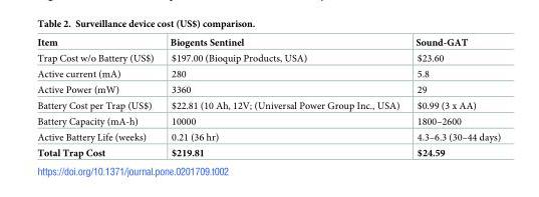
<table><thead><tr><td>Item</td><td>Biogents Sentinel</td><td>Sound-GAT</td></tr></thead><tbody><tr><td>Trap Cost w/o Battery (US$)</td><td>$197.00 (Bioquip Products, USA)</td><td>$23.60</td></tr><tr><td>Active current (mA)</td><td>280</td><td>5.8</td></tr><tr><td>Active Power (mW)</td><td>3360</td><td>29</td></tr><tr><td>Battery Cost per Trap (US$)</td><td>$22.81 (10 Ah, 12V; (Universal Power Group Inc., USA)</td><td>$0.99 (3 x AA)</td></tr><tr><td>Battery Capacity (mA-h)</td><td>10000</td><td>1800–2600</td></tr><tr><td>Active Battery Life (weeks)</td><td>0.21 (36 hr)</td><td>4.3–6.3 (30–44 days)</td></tr><tr><td>Total Trap Cost</td><td>$219.81</td><td>$24.59</td></tr></tbody></table>